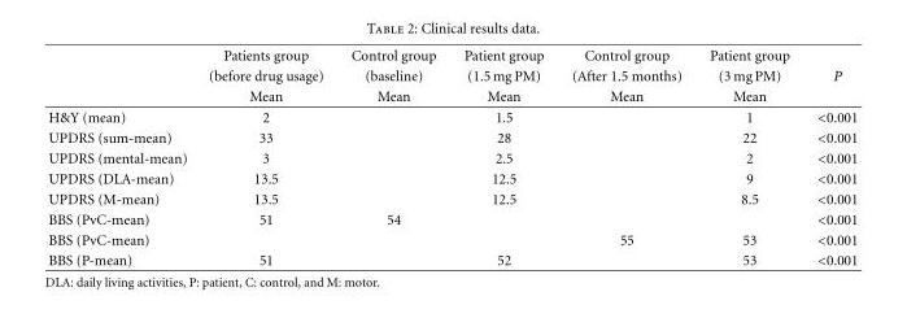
<table><thead><tr><td rowspan="3"></td><td rowspan="3">Patients group (before drug usage) Mean</td><td rowspan="3">Control group (baseline) Mean</td><td rowspan="3">Patient group (1.5 mg PM) Mean</td><td rowspan="3">Control group (After 1.5 months) Mean</td><td rowspan="3">Patient group (3 mg PM) Mean</td><td rowspan="3">P</td></tr><tr></tr><tr></tr></thead><tbody><tr><td>H&amp;Y (mean)</td><td>2</td><td></td><td>1.5</td><td></td><td>1</td><td>&lt;0.001</td></tr><tr><td>UPDRS (sum-mean)</td><td>33</td><td></td><td>28</td><td></td><td>22</td><td>&lt;0.001</td></tr><tr><td>UPDRS (mental-mean)</td><td>3</td><td></td><td>2.5</td><td></td><td>2</td><td>&lt;0.001</td></tr><tr><td>UPDRS (DLA-mean)</td><td>13.5</td><td></td><td>12.5</td><td></td><td>9</td><td>&lt;0.001</td></tr><tr><td>UPDRS (M-mean)</td><td>13.5</td><td></td><td>12.5</td><td></td><td>8.5</td><td>&lt;0.001</td></tr><tr><td>BBS (PvC-mean)</td><td>51</td><td>54</td><td></td><td></td><td></td><td>&lt;0.001</td></tr><tr><td>BBS (PvC-mean)</td><td></td><td></td><td></td><td>55</td><td>53</td><td>&lt;0.001</td></tr><tr><td>BBS (P-mean)</td><td>51</td><td></td><td>52</td><td></td><td>53</td><td>&lt;0.001</td></tr></tbody></table>